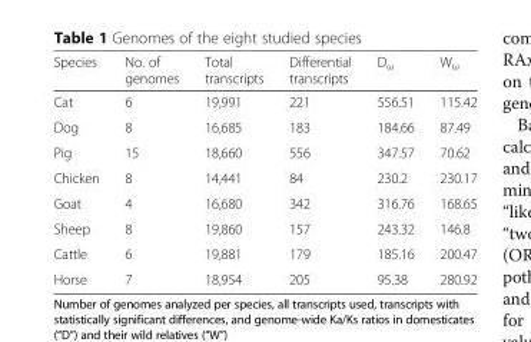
<table><thead><tr><td>Species</td><td>No. of genomes</td><td>Total transcripts</td><td>Differential transcripts</td><td>D<sub>ω</sub></td><td>W<sub>ω</sub></td></tr></thead><tbody><tr><td>Cat</td><td>6</td><td>19,991</td><td>221</td><td>556.51</td><td>115.42</td></tr><tr><td>Dog</td><td>8</td><td>16,685</td><td>183</td><td>184.66</td><td>87.49</td></tr><tr><td>Pig</td><td>15</td><td>18,660</td><td>556</td><td>347.57</td><td>70.62</td></tr><tr><td>Chicken</td><td>8</td><td>14,441</td><td>84</td><td>230.2</td><td>230.17</td></tr><tr><td>Goat</td><td>4</td><td>16,680</td><td>342</td><td>316.76</td><td>168.65</td></tr><tr><td>Sheep</td><td>8</td><td>19,860</td><td>157</td><td>243.32</td><td>146.8</td></tr><tr><td>Cattle</td><td>6</td><td>19,881</td><td>179</td><td>185.16</td><td>200.47</td></tr><tr><td>Horse</td><td>7</td><td>18,954</td><td>205</td><td>95.38</td><td>280.92</td></tr></tbody></table>